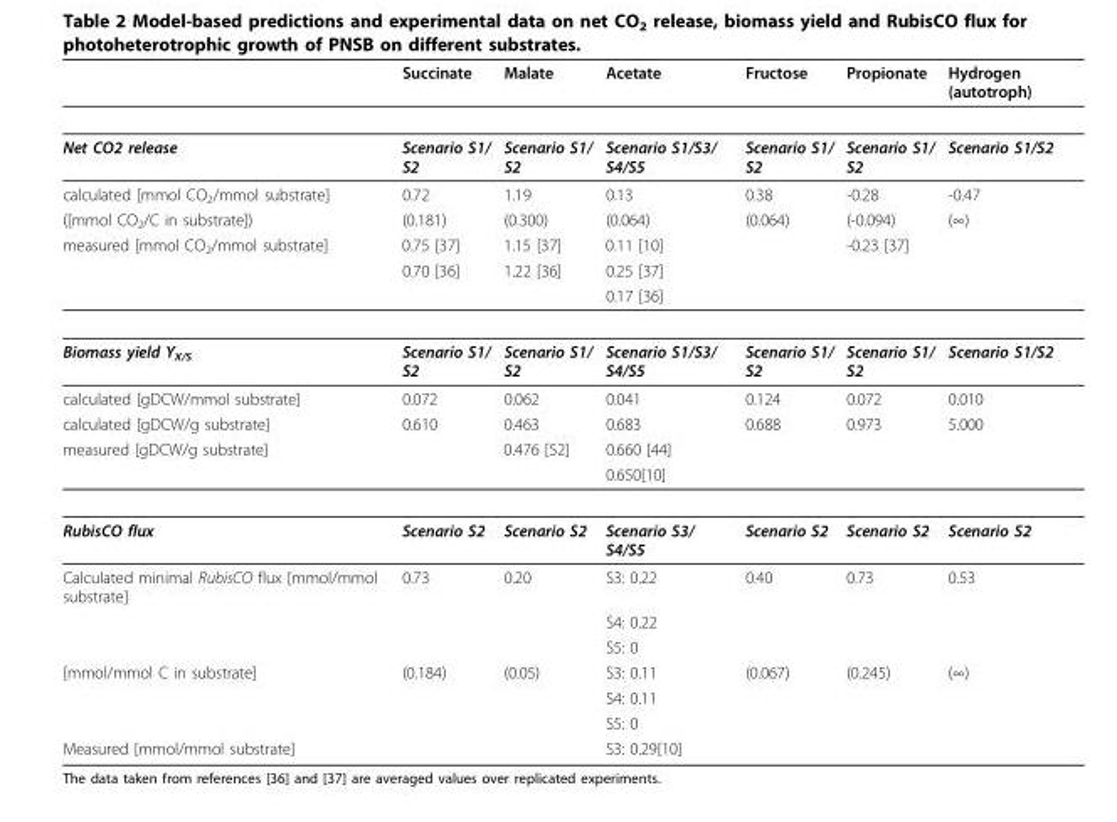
<table><thead><tr><td></td><td>Succinate</td><td>Malate</td><td>Acetate</td><td>Fructose</td><td>Propionate</td><td>Hydrogen (autotroph)</td></tr></thead><tbody><tr><td>Net CO2 release</td><td>Scenario S1/ S2</td><td>Scenario S1/ S2</td><td>Scenario S1/S3/ S4/S5</td><td>Scenario S1/ S2</td><td>Scenario S1/ S2</td><td>Scenario S1/S2</td></tr><tr><td>calculated [mmol CO2/mmol substrate]</td><td>0.72</td><td>1.19</td><td>0.13</td><td>0.38</td><td>-0.28</td><td>-0.47</td></tr><tr><td>([mmol CO2/C in substrate])</td><td>(0.181)</td><td>(0.300)</td><td>(0.064)</td><td>(0.064)</td><td>(-0.094)</td><td>(∞)</td></tr><tr><td rowspan="3">measured [mmol CO2/mmol substrate]</td><td>0.75 [37]</td><td>1.15 [37]</td><td>0.11 [10]</td><td></td><td>-0.23 [37]</td><td></td></tr><tr><td>0.70 [36]</td><td>1.22 [36]</td><td>0.25 [37]</td><td></td><td></td><td></td></tr><tr><td></td><td></td><td>0.17 [36]</td><td></td><td></td><td></td></tr><tr><td>Biomass yield YX/S</td><td>Scenario S1/ S2</td><td>Scenario S1/ S2</td><td>Scenario S1/S3/ S4/S5</td><td>Scenario S1/ S2</td><td>Scenario S1/ S2</td><td>Scenario S1/S2</td></tr><tr><td>calculated [gDCW/mmol substrate]</td><td>0.072</td><td>0.062</td><td>0.041</td><td>0.124</td><td>0.072</td><td>0.010</td></tr><tr><td>calculated [gDCW/g substrate]</td><td>0.610</td><td>0.463</td><td>0.683</td><td>0.688</td><td>0.973</td><td>5.000</td></tr><tr><td rowspan="2">measured [gDCW/g substrate]</td><td></td><td>0.476 [52]</td><td>0.660 [44]</td><td></td><td></td><td></td></tr><tr><td></td><td></td><td>0.650[10]</td><td></td><td></td><td></td></tr><tr><td>RubisCO flux</td><td>Scenario S2</td><td>Scenario S2</td><td>Scenario S3/ S4/S5</td><td>Scenario S2</td><td>Scenario S2</td><td>Scenario S2</td></tr><tr><td rowspan="3">Calculated minimal RubisCO flux [mmol/mmol substrate]</td><td>0.73</td><td>0.20</td><td>S3: 0.22</td><td>0.40</td><td>0.73</td><td>0.53</td></tr><tr><td></td><td></td><td>S4: 0.22</td><td></td><td></td><td></td></tr><tr><td></td><td></td><td>S5: 0</td><td></td><td></td><td></td></tr><tr><td rowspan="3">[mmol/mmol C in substrate]</td><td>(0.184)</td><td>(0.05)</td><td>S3: 0.11</td><td>(0.067)</td><td>(0.245)</td><td>(∞)</td></tr><tr><td></td><td></td><td>S4: 0.11</td><td></td><td></td><td></td></tr><tr><td></td><td></td><td>S5: 0</td><td></td><td></td><td></td></tr><tr><td>Measured [mmol/mmol substrate]</td><td></td><td></td><td>S3: 0.29[10]</td><td></td><td></td><td></td></tr></tbody></table>